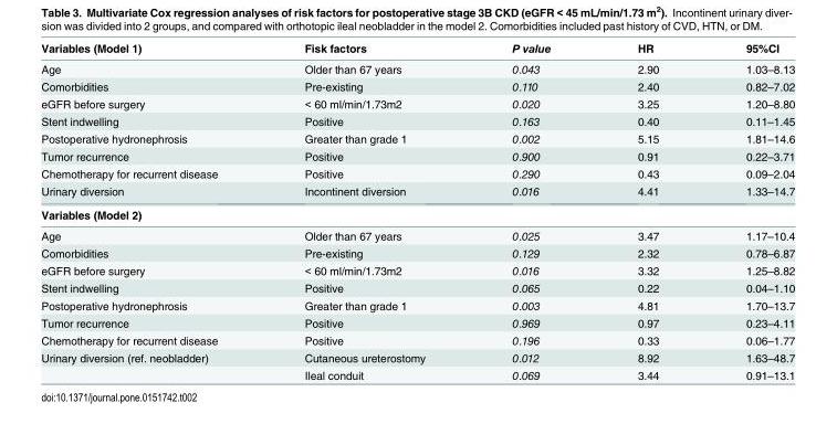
<table><thead><tr><td>Variables (Model 1)</td><td>Fisk factors</td><td>P value</td><td>HR</td><td>95%CI</td></tr></thead><tbody><tr><td>Age</td><td>Older than 67 years</td><td>0.043</td><td>2.90</td><td>1.03–8.13</td></tr><tr><td>Comorbidities</td><td>Pre-existing</td><td>0.110</td><td>2.40</td><td>0.82–7.02</td></tr><tr><td>eGFR before surgery</td><td>&lt; 60 ml/min/1.73m2</td><td>0.020</td><td>3.25</td><td>1.20–8.80</td></tr><tr><td>Stent indwelling</td><td>Positive</td><td>0.163</td><td>0.40</td><td>0.11–1.45</td></tr><tr><td>Postoperative hydronephrosis</td><td>Greater than grade 1</td><td>0.002</td><td>5.15</td><td>1.81–14.6</td></tr><tr><td>Tumor recurrence</td><td>Positive</td><td>0.900</td><td>0.91</td><td>0.22–3.71</td></tr><tr><td>Chemotherapy for recurrent disease</td><td>Positive</td><td>0.290</td><td>0.43</td><td>0.09–2.04</td></tr><tr><td>Urinary diversion</td><td>Incontinent diversion</td><td>0.016</td><td>4.41</td><td>1.33–14.7</td></tr><tr><td colspan="5">Variables (Model 2)</td></tr><tr><td>Age</td><td>Older than 67 years</td><td>0.025</td><td>3.47</td><td>1.17–10.4</td></tr><tr><td>Comorbidities</td><td>Pre-existing</td><td>0.129</td><td>2.32</td><td>0.78–6.87</td></tr><tr><td>eGFR before surgery</td><td>&lt; 60 ml/min/1.73m2</td><td>0.016</td><td>3.32</td><td>1.25–8.82</td></tr><tr><td>Stent indwelling</td><td>Positive</td><td>0.065</td><td>0.22</td><td>0.04–1.10</td></tr><tr><td>Postoperative hydronephrosis</td><td>Greater than grade 1</td><td>0.003</td><td>4.81</td><td>1.70–13.7</td></tr><tr><td>Tumor recurrence</td><td>Positive</td><td>0.969</td><td>0.97</td><td>0.23–4.11</td></tr><tr><td>Chemotherapy for recurrent disease</td><td>Positive</td><td>0.196</td><td>0.33</td><td>0.06–1.77</td></tr><tr><td rowspan="2">Urinary diversion (ref. neobladder)</td><td>Cutaneous ureterostomy</td><td>0.012</td><td>8.92</td><td>1.63–48.7</td></tr><tr><td>Ileal conduit</td><td>0.069</td><td>3.44</td><td>0.91–13.1</td></tr></tbody></table>